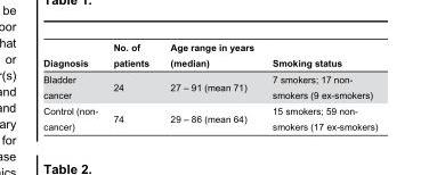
<table><thead><tr><td>Diagnosis</td><td>No. of patients</td><td>Age range in years (median)</td><td>Smoking status</td></tr></thead><tbody><tr><td>Bladder cancer</td><td>24</td><td>27 – 91 (mean 71)</td><td>7 smokers; 17 non- smokers (9 ex-smokers)</td></tr><tr><td>Control (non- cancer)</td><td>74</td><td>29 – 86 (mean 64)</td><td>15 smokers; 59 non- smokers (17 ex-smokers)</td></tr></tbody></table>